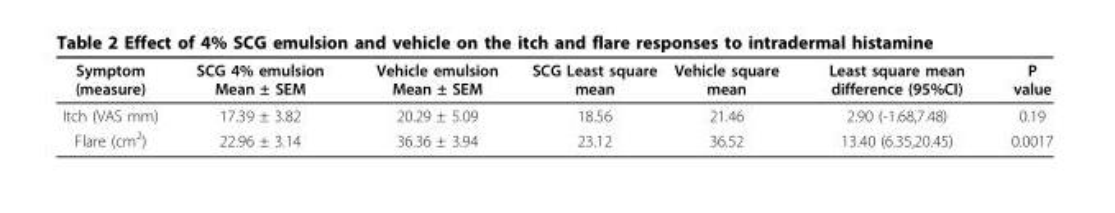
<table><thead><tr><td>Symptom (measure)</td><td>SCG 4% emulsion Mean ± SEM</td><td>Vehicle emulsion Mean ± SEM</td><td>SCG Least square mean</td><td>Vehicle square mean</td><td>Least square mean difference (95%CI)</td><td>P value</td></tr></thead><tbody><tr><td>Itch (VAS mm)</td><td>17.39 ± 3.82</td><td>20.29 ± 5.09</td><td>18.56</td><td>21.46</td><td>2.90 (-1.68,7.48)</td><td>0.19</td></tr><tr><td>Flare (cm<sup>2</sup>)</td><td>22.96 ± 3.14</td><td>36.36 ± 3.94</td><td>23.12</td><td>36.52</td><td>13.40 (6.35,20.45)</td><td>0.0017</td></tr></tbody></table>